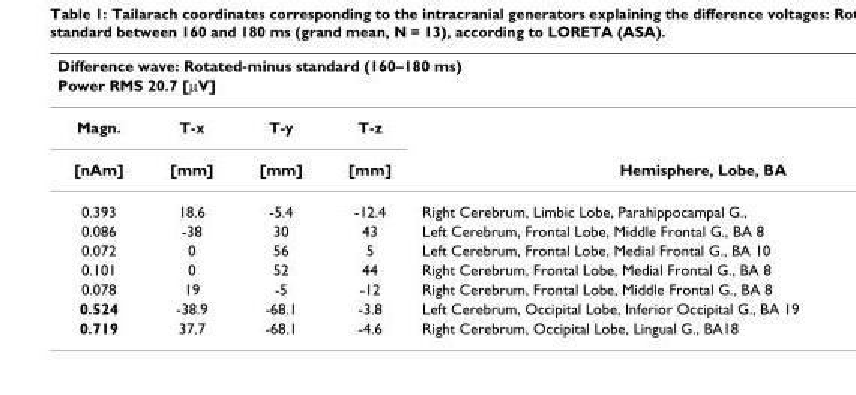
<table><thead><tr><td rowspan="2" colspan="5">Difference wave: Rotated-minus standard (160–180 ms) Power RMS 20.7 [μV]</td></tr><tr></tr><tr><td>Magn.</td><td>T-x</td><td>T-y</td><td>T-z</td><td></td></tr></thead><tbody><tr><td>[nAm]</td><td>[mm]</td><td>[mm]</td><td>[mm]</td><td>Hemisphere, Lobe, BA</td></tr><tr><td>0.393</td><td>18.6</td><td>-5.4</td><td>-12.4</td><td>Right Cerebrum, Limbic Lobe, Parahippocampal G.,</td></tr><tr><td>0.086</td><td>-38</td><td>30</td><td>43</td><td>Left Cerebrum, Frontal Lobe, Middle Frontal G., BA 8</td></tr><tr><td>0.072</td><td>0</td><td>56</td><td>5</td><td>Left Cerebrum, Frontal Lobe, Medial Frontal G., BA 10</td></tr><tr><td>0.101</td><td>0</td><td>52</td><td>44</td><td>Right Cerebrum, Frontal Lobe, Medial Frontal G., BA 8</td></tr><tr><td>0.078</td><td>19</td><td>-5</td><td>-12</td><td>Right Cerebrum, Frontal Lobe, Middle Frontal G., BA 8</td></tr><tr><td>0.524</td><td>-38.9</td><td>-68.1</td><td>-3.8</td><td>Left Cerebrum, Occipital Lobe, Inferior Occipital G., BA 19</td></tr><tr><td>0.719</td><td>37.7</td><td>-68.1</td><td>-4.6</td><td>Right Cerebrum, Occipital Lobe, Lingual G., BA18</td></tr></tbody></table>